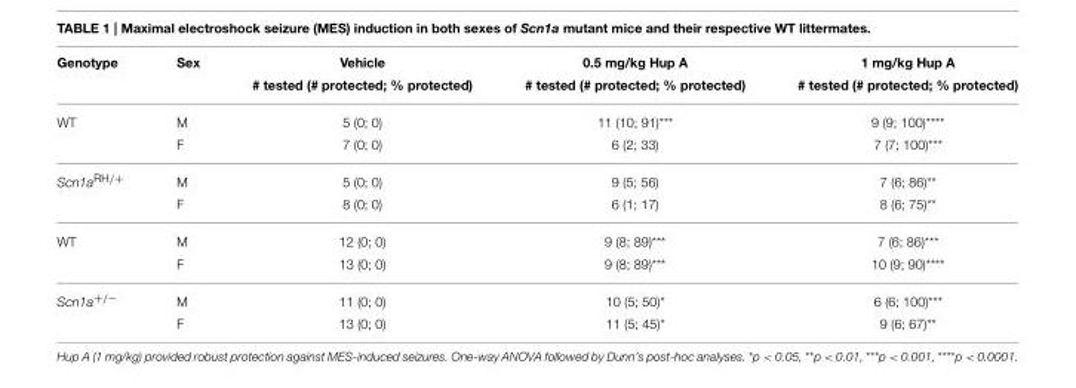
<table><thead><tr><td>Genotype</td><td>Sex</td><td>Vehicle # tested (# protected; % protected)</td><td>0.5 mg/kg Hup A # tested (# protected; % protected)</td><td>1 mg/kg Hup A # tested (# protected; % protected)</td></tr></thead><tbody><tr><td rowspan="2">WT</td><td>M</td><td>5 (0; 0)</td><td>11 (10; 91)***</td><td>9 (9; 100)****</td></tr><tr><td>F</td><td>7 (0; 0)</td><td>6 (2; 33)</td><td>7 (7; 100)***</td></tr><tr><td rowspan="2">Scn1a<sup>RH/+</sup></td><td>M</td><td>5 (0; 0)</td><td>9 (5; 56)</td><td>7 (6; 86)**</td></tr><tr><td>F</td><td>8 (0; 0)</td><td>6 (1; 17)</td><td>8 (6; 75)**</td></tr><tr><td rowspan="2">WT</td><td>M</td><td>12 (0; 0)</td><td>9 (8; 89)***</td><td>7 (6; 86)***</td></tr><tr><td>F</td><td>13 (0; 0)</td><td>9 (8; 89)***</td><td>10 (9; 90)****</td></tr><tr><td rowspan="2">Scn1a<sup>+/−</sup></td><td>M</td><td>11 (0; 0)</td><td>10 (5; 50)*</td><td>6 (6; 100)***</td></tr><tr><td>F</td><td>13 (0; 0)</td><td>11 (5; 45)*</td><td>9 (6; 67)**</td></tr></tbody></table>